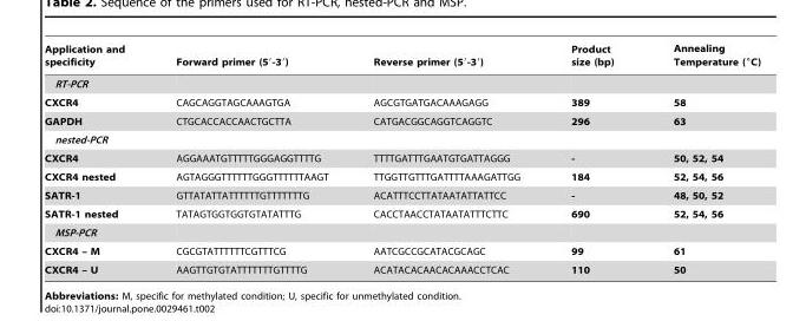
<table><thead><tr><td>Application and specificity</td><td>Forward primer (5′-3′)</td><td>Reverse primer (5′-3′)</td><td>Product size (bp)</td><td>Annealing Temperature (°C)</td></tr></thead><tbody><tr><td colspan="5">RT-PCR</td></tr><tr><td>CXCR4</td><td>CAGCAGGTAGCAAAGTGA</td><td>AGCGTGATGACAAAGAGG</td><td>389</td><td>58</td></tr><tr><td>GAPDH</td><td>CTGCACCACCAACTGCTTA</td><td>CATGACGGCAGGTCAGGTC</td><td>296</td><td>63</td></tr><tr><td colspan="5">nested-PCR</td></tr><tr><td>CXCR4</td><td>AGGAAATGTTTTTGGGAGGTTTTG</td><td>TTTTGATTTGAATGTGATTAGGG</td><td>-</td><td>50, 52, 54</td></tr><tr><td>CXCR4 nested</td><td>AGTAGGGTTTTTTGGGTTTTTTAAGT</td><td>TTGGTTGTTTGATTTTAAAGATTGG</td><td>184</td><td>52, 54, 56</td></tr><tr><td>SATR-1</td><td>GTTATATTATTTTTTGTTTTTTTG</td><td>ACATTTCCTTATAATATTATTCC</td><td>-</td><td>48, 50, 52</td></tr><tr><td>SATR-1 nested</td><td>TATAGTGGTGGTGTATATTTG</td><td>CACCTAACCTATAATATTTCTTC</td><td>690</td><td>52, 54, 56</td></tr><tr><td colspan="5">MSP-PCR</td></tr><tr><td>CXCR4 – M</td><td>CGCGTATTTTTTCGTTTCG</td><td>AATCGCCGCATACGCAGC</td><td>99</td><td>61</td></tr><tr><td>CXCR4 – U</td><td>AAGTTGTGTATTTTTTTGTTTTG</td><td>ACATACACAACACAAACCTCAC</td><td>110</td><td>50</td></tr></tbody></table>